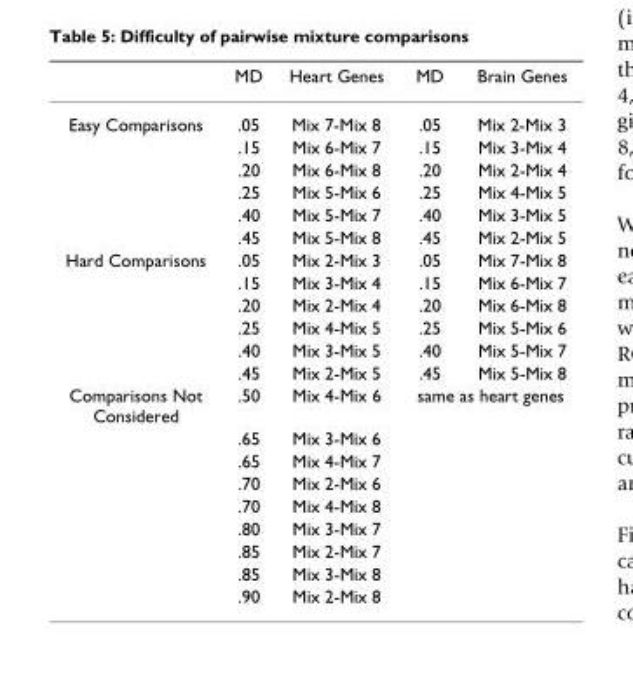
<table><thead><tr><td></td><td>MD</td><td>Heart Genes</td><td>MD</td><td>Brain Genes</td></tr></thead><tbody><tr><td rowspan="6">Easy Comparisons</td><td>.05</td><td>Mix 7-Mix 8</td><td>.05</td><td>Mix 2-Mix 3</td></tr><tr><td>.15</td><td>Mix 6-Mix 7</td><td>.15</td><td>Mix 3-Mix 4</td></tr><tr><td>.20</td><td>Mix 6-Mix 8</td><td>.20</td><td>Mix 2-Mix 4</td></tr><tr><td>.25</td><td>Mix 5-Mix 6</td><td>.25</td><td>Mix 4-Mix 5</td></tr><tr><td>.40</td><td>Mix 5-Mix 7</td><td>.40</td><td>Mix 3-Mix 5</td></tr><tr><td>.45</td><td>Mix 5-Mix 8</td><td>.45</td><td>Mix 2-Mix 5</td></tr><tr><td rowspan="6">Hard Comparisons</td><td>.05</td><td>Mix 2-Mix 3</td><td>.05</td><td>Mix 7-Mix 8</td></tr><tr><td>.15</td><td>Mix 3-Mix 4</td><td>.15</td><td>Mix 6-Mix 7</td></tr><tr><td>.20</td><td>Mix 2-Mix 4</td><td>.20</td><td>Mix 6-Mix 8</td></tr><tr><td>.25</td><td>Mix 4-Mix 5</td><td>.25</td><td>Mix 5-Mix 6</td></tr><tr><td>.40</td><td>Mix 3-Mix 5</td><td>.40</td><td>Mix 5-Mix 7</td></tr><tr><td>.45</td><td>Mix 2-Mix 5</td><td>.45</td><td>Mix 5-Mix 8</td></tr><tr><td rowspan="9">Comparisons Not Considered</td><td>.50</td><td>Mix 4-Mix 6</td><td colspan="2">same as heart genes</td></tr><tr><td>.65</td><td>Mix 3-Mix 6</td><td></td><td></td></tr><tr><td>.65</td><td>Mix 4-Mix 7</td><td></td><td></td></tr><tr><td>.70</td><td>Mix 2-Mix 6</td><td></td><td></td></tr><tr><td>.70</td><td>Mix 4-Mix 8</td><td></td><td></td></tr><tr><td>.80</td><td>Mix 3-Mix 7</td><td></td><td></td></tr><tr><td>.85</td><td>Mix 2-Mix 7</td><td></td><td></td></tr><tr><td>.85</td><td>Mix 3-Mix 8</td><td></td><td></td></tr><tr><td>.90</td><td>Mix 2-Mix 8</td><td></td><td></td></tr></tbody></table>